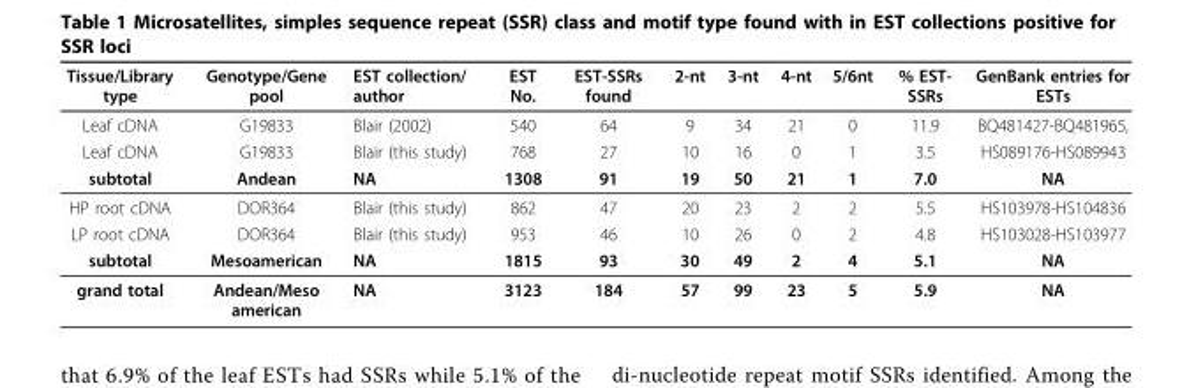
<table><thead><tr><td>Tissue/Library type</td><td>Genotype/Gene pool</td><td>EST collection/ author</td><td>EST No.</td><td>EST-SSRs found</td><td>2-nt</td><td>3-nt</td><td>4-nt</td><td>5/6nt</td><td>% EST- SSRs</td><td>GenBank entries for ESTs</td></tr></thead><tbody><tr><td>Leaf cDNA</td><td>G19833</td><td>Blair (2002)</td><td>540</td><td>64</td><td>9</td><td>34</td><td>21</td><td>0</td><td>11.9</td><td>BQ481427-BQ481965,</td></tr><tr><td>Leaf cDNA</td><td>G19833</td><td>Blair (this study)</td><td>768</td><td>27</td><td>10</td><td>16</td><td>0</td><td>1</td><td>3.5</td><td>HS089176-HS089943</td></tr><tr><td>subtotal</td><td>Andean</td><td>NA</td><td>1308</td><td>91</td><td>19</td><td>50</td><td>21</td><td>1</td><td>7.0</td><td>NA</td></tr><tr><td>HP root cDNA</td><td>DOR364</td><td>Blair (this study)</td><td>862</td><td>47</td><td>20</td><td>23</td><td>2</td><td>2</td><td>5.5</td><td>HS103978-HS104836</td></tr><tr><td>LP root cDNA</td><td>DOR364</td><td>Blair (this study)</td><td>953</td><td>46</td><td>10</td><td>26</td><td>0</td><td>2</td><td>4.8</td><td>HS103028-HS103977</td></tr><tr><td>subtotal</td><td>Mesoamerican</td><td>NA</td><td>1815</td><td>93</td><td>30</td><td>49</td><td>2</td><td>4</td><td>5.1</td><td>NA</td></tr><tr><td>grand total</td><td>Andean/Meso american</td><td>NA</td><td>3123</td><td>184</td><td>57</td><td>99</td><td>23</td><td>5</td><td>5.9</td><td>NA</td></tr></tbody></table>